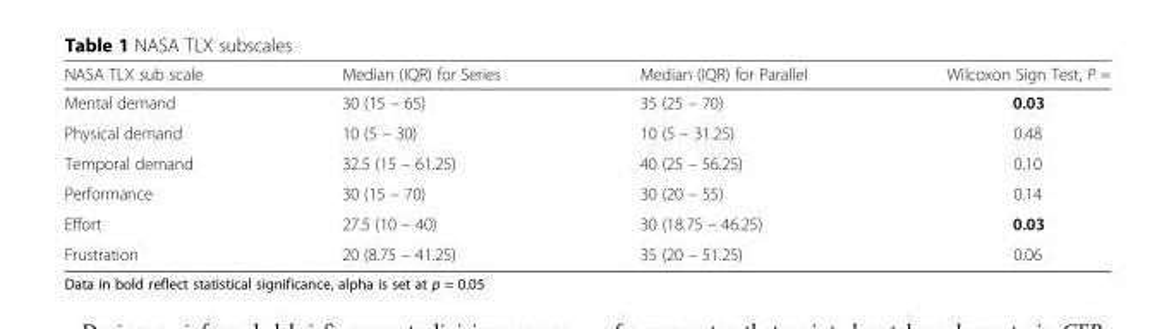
<table><thead><tr><td>NASA TLX sub scale</td><td>Median (IQR) for Series</td><td>Median (IQR) for Parallel</td><td>Wilcoxon Sign Test, P =</td></tr></thead><tbody><tr><td>Mental demand</td><td>30 (15 – 65)</td><td>35 (25 – 70)</td><td>0.03</td></tr><tr><td>Physical demand</td><td>10 (5 – 30)</td><td>10 (5 – 31.25)</td><td>0.48</td></tr><tr><td>Temporal demand</td><td>32.5 (15 – 61.25)</td><td>40 (25 – 56.25)</td><td>0.10</td></tr><tr><td>Performance</td><td>30 (15 – 70)</td><td>30 (20 – 55)</td><td>0.14</td></tr><tr><td>Effort</td><td>27.5 (10 – 40)</td><td>30 (18.75 – 46.25)</td><td>0.03</td></tr><tr><td>Frustration</td><td>20 (8.75 – 41.25)</td><td>35 (20 – 51.25)</td><td>0.06</td></tr></tbody></table>